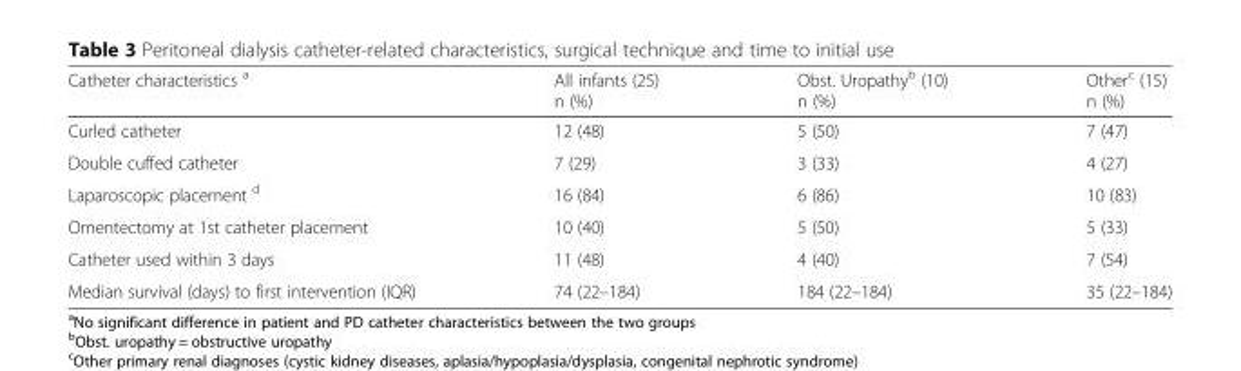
<table><thead><tr><td>Catheter characteristics <sup>a</sup></td><td>All infants (25) n (%)</td><td>Obst. Uropathy<sup>b</sup> (10) n (%)</td><td>Other<sup>c</sup> (15) n (%)</td></tr></thead><tbody><tr><td>Curled catheter</td><td>12 (48)</td><td>5 (50)</td><td>7 (47)</td></tr><tr><td>Double cuffed catheter</td><td>7 (29)</td><td>3 (33)</td><td>4 (27)</td></tr><tr><td>Laparoscopic placement <sup>d</sup></td><td>16 (84)</td><td>6 (86)</td><td>10 (83)</td></tr><tr><td>Omentectomy at 1st catheter placement</td><td>10 (40)</td><td>5 (50)</td><td>5 (33)</td></tr><tr><td>Catheter used within 3 days</td><td>11 (48)</td><td>4 (40)</td><td>7 (54)</td></tr><tr><td>Median survival (days) to first intervention (IQR)</td><td>74 (22–184)</td><td>184 (22–184)</td><td>35 (22–184)</td></tr></tbody></table>